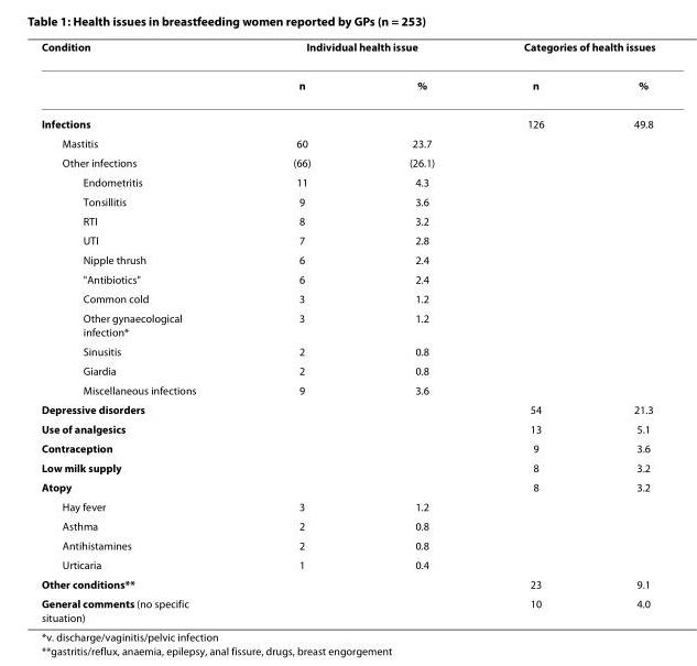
<table><thead><tr><td rowspan="2">Condition</td><td colspan="2">Individual health issue</td><td colspan="2">Categories of health issues</td></tr><tr><td>n</td><td>%</td><td>n</td><td>%</td></tr></thead><tbody><tr><td>Infections</td><td></td><td></td><td>126</td><td>49.8</td></tr><tr><td>Mastitis</td><td>60</td><td>23.7</td><td></td><td></td></tr><tr><td>Other infections</td><td>(66)</td><td>(26.1)</td><td></td><td></td></tr><tr><td>Endometritis</td><td>11</td><td>4.3</td><td></td><td></td></tr><tr><td>Tonsillitis</td><td>9</td><td>3.6</td><td></td><td></td></tr><tr><td>RTI</td><td>8</td><td>3.2</td><td></td><td></td></tr><tr><td>UTI</td><td>7</td><td>2.8</td><td></td><td></td></tr><tr><td>Nipple thrush</td><td>6</td><td>2.4</td><td></td><td></td></tr><tr><td>&quot;Antibiotics&quot;</td><td>6</td><td>2.4</td><td></td><td></td></tr><tr><td>Common cold</td><td>3</td><td>1.2</td><td></td><td></td></tr><tr><td>Other gynaecological infection*</td><td>3</td><td>1.2</td><td></td><td></td></tr><tr><td>Sinusitis</td><td>2</td><td>0.8</td><td></td><td></td></tr><tr><td>Giardia</td><td>2</td><td>0.8</td><td></td><td></td></tr><tr><td>Miscellaneous infections</td><td>9</td><td>3.6</td><td></td><td></td></tr><tr><td>Depressive disorders</td><td></td><td></td><td>54</td><td>21.3</td></tr><tr><td>Use of analgesics</td><td></td><td></td><td>13</td><td>5.1</td></tr><tr><td>Contraception</td><td></td><td></td><td>9</td><td>3.6</td></tr><tr><td>Low milk supply</td><td></td><td></td><td>8</td><td>3.2</td></tr><tr><td>Atopy</td><td></td><td></td><td>8</td><td>3.2</td></tr><tr><td>Hay fever</td><td>3</td><td>1.2</td><td></td><td></td></tr><tr><td>Asthma</td><td>2</td><td>0.8</td><td></td><td></td></tr><tr><td>Antihistamines</td><td>2</td><td>0.8</td><td></td><td></td></tr><tr><td>Urticaria</td><td>1</td><td>0.4</td><td></td><td></td></tr><tr><td>Other conditions**</td><td></td><td></td><td>23</td><td>9.1</td></tr><tr><td>General comments (no specific situation)</td><td></td><td></td><td>10</td><td>4.0</td></tr></tbody></table>